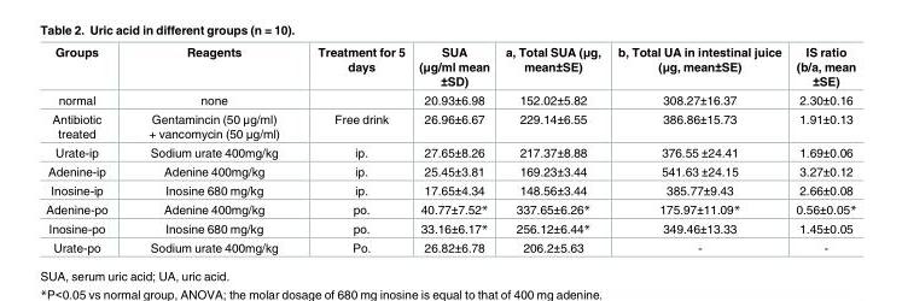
<table><thead><tr><td>Groups</td><td>Reagents</td><td>Treatment for 5 days</td><td>SUA (μg/ml mean ±SD)</td><td>a, Total SUA (μg, mean±SE)</td><td>b, Total UA in intestinal juice (μg, mean±SE)</td><td>IS ratio (b/a, mean ±SE)</td></tr></thead><tbody><tr><td>normal</td><td>none</td><td></td><td>20.93±6.98</td><td>152.02±5.82</td><td>308.27±16.37</td><td>2.30±0.16</td></tr><tr><td>Antibiotic treated</td><td>Gentamincin (50 μg/ml) + vancomycin (50 μg/ml)</td><td>Free drink</td><td>26.96±6.67</td><td>229.14±6.55</td><td>386.86±15.73</td><td>1.91±0.13</td></tr><tr><td>Urate-ip</td><td>Sodium urate 400mg/kg</td><td>ip.</td><td>27.65±8.26</td><td>217.37±8.88</td><td>376.55 ±24.41</td><td>1.69±0.06</td></tr><tr><td>Adenine-ip</td><td>Adenine 400mg/kg</td><td>ip.</td><td>25.45±3.81</td><td>169.23±3.44</td><td>541.63 ±24.15</td><td>3.27±0.12</td></tr><tr><td>Inosine-ip</td><td>Inosine 680 mg/kg</td><td>ip.</td><td>17.65±4.34</td><td>148.56±3.44</td><td>385.77±9.43</td><td>2.66±0.08</td></tr><tr><td>Adenine-po</td><td>Adenine 400mg/kg</td><td>po.</td><td>40.77±7.52*</td><td>337.65±6.26*</td><td>175.97±11.09*</td><td>0.56±0.05*</td></tr><tr><td>Inosine-po</td><td>Inosine 680 mg/kg</td><td>po.</td><td>33.16±6.17*</td><td>256.12±6.44*</td><td>349.46±13.33</td><td>1.45±0.05</td></tr><tr><td>Urate-po</td><td>Sodium urate 400mg/kg</td><td>Po.</td><td>26.82±6.78</td><td>206.2±5.63</td><td>-</td><td>-</td></tr></tbody></table>